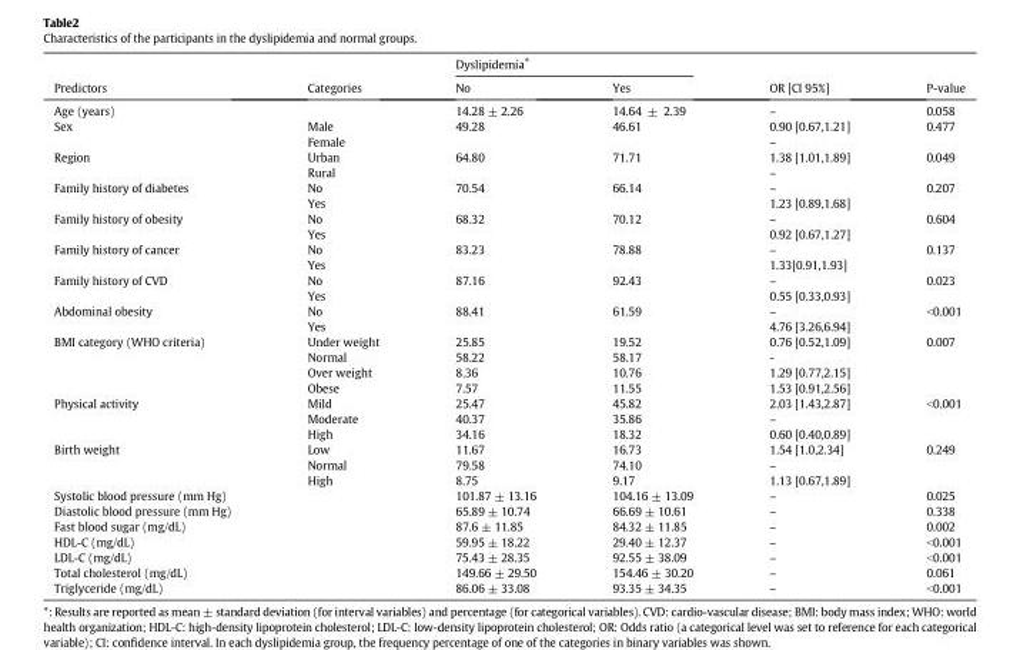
<table><thead><tr><td rowspan="2">Predictors</td><td rowspan="2">Categories</td><td colspan="2">Dyslipidemia<sup>⁎</sup></td><td rowspan="2">OR [CI 95%]</td><td rowspan="2">P-value</td></tr><tr><td>No</td><td>Yes</td></tr></thead><tbody><tr><td>Age (years)</td><td></td><td>14.28 ± 2.26</td><td>14.64 ± 2.39</td><td>–</td><td>0.058</td></tr><tr><td rowspan="2">Sex</td><td>Male</td><td>49.28</td><td>46.61</td><td>0.90 [0.67,1.21]</td><td rowspan="2">0.477</td></tr><tr><td>Female</td><td></td><td></td><td>–</td></tr><tr><td rowspan="2">Region</td><td>Urban</td><td>64.80</td><td>71.71</td><td>1.38 [1.01,1.89]</td><td rowspan="2">0.049</td></tr><tr><td>Rural</td><td></td><td></td><td>–</td></tr><tr><td rowspan="2">Family history of diabetes</td><td>No</td><td>70.54</td><td>66.14</td><td>–</td><td rowspan="2">0.207</td></tr><tr><td>Yes</td><td></td><td></td><td>1.23 [0.89,1.68]</td></tr><tr><td rowspan="2">Family history of obesity</td><td>No</td><td>68.32</td><td>70.12</td><td>–</td><td rowspan="2">0.604</td></tr><tr><td>Yes</td><td></td><td></td><td>0.92 [0.67,1.27]</td></tr><tr><td rowspan="2">Family history of cancer</td><td>No</td><td>83.23</td><td>78.88</td><td>–</td><td rowspan="2">0.137</td></tr><tr><td>Yes</td><td></td><td></td><td>1.33[0.91,1.93]</td></tr><tr><td rowspan="2">Family history of CVD</td><td>No</td><td>87.16</td><td>92.43</td><td>–</td><td rowspan="2">0.023</td></tr><tr><td>Yes</td><td></td><td></td><td>0.55 [0.33,0.93]</td></tr><tr><td rowspan="2">Abdominal obesity</td><td>No</td><td>88.41</td><td>61.59</td><td>–</td><td rowspan="2">&lt;0.001</td></tr><tr><td>Yes</td><td></td><td></td><td>4.76 [3.26,6.94]</td></tr><tr><td rowspan="4">BMI category (WHO criteria)</td><td>Under weight</td><td>25.85</td><td>19.52</td><td>0.76 [0.52,1.09]</td><td rowspan="4">0.007</td></tr><tr><td>Normal</td><td>58.22</td><td>58.17</td><td>-</td></tr><tr><td>Over weight</td><td>8.36</td><td>10.76</td><td>1.29 [0.77,2.15]</td></tr><tr><td>Obese</td><td>7.57</td><td>11.55</td><td>1.53 [0.91,2.56]</td></tr><tr><td rowspan="3">Physical activity</td><td>Mild</td><td>25.47</td><td>45.82</td><td>2.03 [1.43,2.87]</td><td rowspan="3">&lt;0.001</td></tr><tr><td>Moderate</td><td>40.37</td><td>35.86</td><td>–</td></tr><tr><td>High</td><td>34.16</td><td>18.32</td><td>0.60 [0.40,0.89]</td></tr><tr><td rowspan="3">Birth weight</td><td>Low</td><td>11.67</td><td>16.73</td><td>1.54 [1.0,2.34]</td><td rowspan="3">0.249</td></tr><tr><td>Normal</td><td>79.58</td><td>74.10</td><td>–</td></tr><tr><td>High</td><td>8.75</td><td>9.17</td><td>1.13 [0.67,1.89]</td></tr><tr><td>Systolic blood pressure (mm Hg)</td><td></td><td>101.87 ± 13.16</td><td>104.16 ± 13.09</td><td>–</td><td>0.025</td></tr><tr><td>Diastolic blood pressure (mm Hg)</td><td></td><td>65.89 ± 10.74</td><td>66.69 ± 10.61</td><td>–</td><td>0.338</td></tr><tr><td>Fast blood sugar (mg/dL)</td><td></td><td>87.6 ± 11.85</td><td>84.32 ± 11.85</td><td>–</td><td>0.002</td></tr><tr><td>HDL-C (mg/dL)</td><td></td><td>59.95 ± 18.22</td><td>29.40 ± 12.37</td><td>–</td><td>&lt;0.001</td></tr><tr><td>LDL-C (mg/dL)</td><td></td><td>75.43 ± 28.35</td><td>92.55 ± 38.09</td><td>–</td><td>&lt;0.001</td></tr><tr><td>Total cholesterol (mg/dL)</td><td></td><td>149.66 ± 29.50</td><td>154.46 ± 30.20</td><td>–</td><td>0.061</td></tr><tr><td>Triglyceride (mg/dL)</td><td></td><td>86.06 ± 33.08</td><td>93.35 ± 34.35</td><td>–</td><td>&lt;0.001</td></tr></tbody></table>